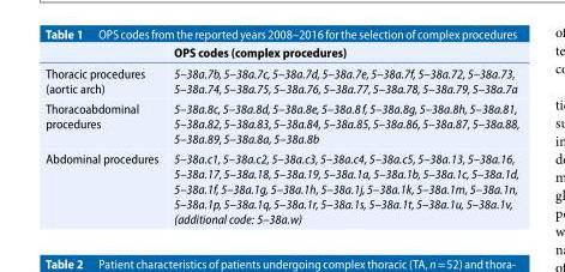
<table><thead><tr><td></td><td>OPS codes (complex procedures)</td></tr></thead><tbody><tr><td>Thoracic procedures (aortic arch)</td><td>5–38a.7b,5–38a.7c,5–38a.7d,5–38a.7e,5–38a.7f,5–38a.72,5–38a.73, 5–38a.74,5–38a.75,5–38a.76,5–38a.77,5–38a.78,5–38a.79,5–38a.7a</td></tr><tr><td>Thoracoabdominal procedures</td><td>5–38a.8c,5–38a.8d,5–38a.8e,5–38a.8f,5–38a.8g,5–38a.8h,5–38a.81, 5–38a.82,5–38a.83,5–38a.84,5–38a.85,5–38a.86,5–38a.87,5–38a.88, 5–38a.89,5–38a.8a,5–38a.8b</td></tr><tr><td>Abdominal procedures</td><td>5–38a.c1,5–38a.c2,5–38a.c3,5–38a.c4,5–38a.c5,5–38a.13,5–38a.16, 5–38a.17,5–38a.18,5–38a.19,5–38a.1a,5–38a.1b,5–38a.1c,5–38a.1d, 5–38a.1f,5–38a.1g,5–38a.1h,5–38a.1j,5–38a.1k,5–38a.1m,5–38a.1n, 5–38a.1p,5–38a.1q,5–38a.1r,5–38a.1s, 5–38a.1t,5–38a.1u, 5–38a.1v, (additional code: 5–38a.w)</td></tr></tbody></table>